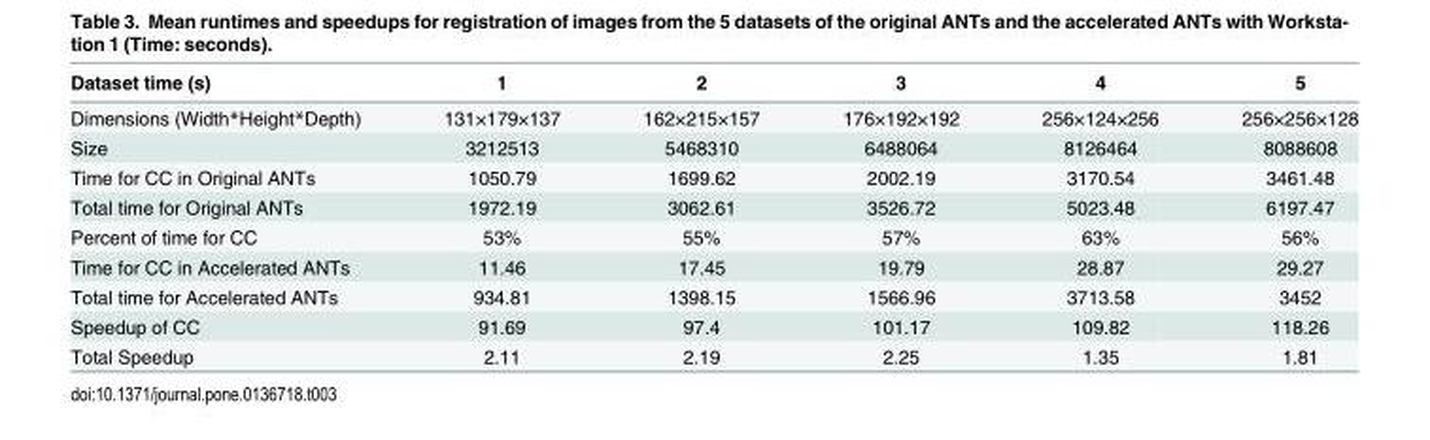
<table><thead><tr><td>Dataset time (s)</td><td>1</td><td>2</td><td>3</td><td>4</td><td>5</td></tr></thead><tbody><tr><td>Dimensions (Width*Height*Depth)</td><td>131×179×137</td><td>162×215×157</td><td>176×192×192</td><td>256×124×256</td><td>256×256×128</td></tr><tr><td>Size</td><td>3212513</td><td>5468310</td><td>6488064</td><td>8126464</td><td>8088608</td></tr><tr><td>Time for CC in Original ANTs</td><td>1050.79</td><td>1699.62</td><td>2002.19</td><td>3170.54</td><td>3461.48</td></tr><tr><td>Total time for Original ANTs</td><td>1972.19</td><td>3062.61</td><td>3526.72</td><td>5023.48</td><td>6197.47</td></tr><tr><td>Percent of time for CC</td><td>53%</td><td>55%</td><td>57%</td><td>63%</td><td>56%</td></tr><tr><td>Time for CC in Accelerated ANTs</td><td>11.46</td><td>17.45</td><td>19.79</td><td>28.87</td><td>29.27</td></tr><tr><td>Total time for Accelerated ANTs</td><td>934.81</td><td>1398.15</td><td>1566.96</td><td>3713.58</td><td>3452</td></tr><tr><td>Speedup of CC</td><td>91.69</td><td>97.4</td><td>101.17</td><td>109.82</td><td>118.26</td></tr><tr><td>Total Speedup</td><td>2.11</td><td>2.19</td><td>2.25</td><td>1.35</td><td>1.81</td></tr></tbody></table>